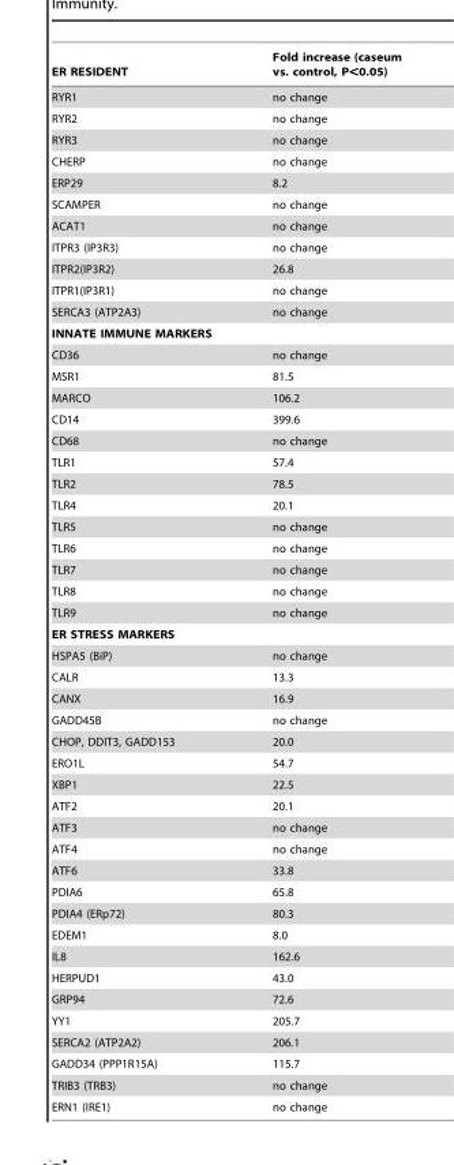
<table><thead><tr><td>ER RESIDENT</td><td>Fold increase (caseum vs. control, P&lt;0.05)</td></tr></thead><tbody><tr><td>RYR1</td><td>no change</td></tr><tr><td>RYR2</td><td>no change</td></tr><tr><td>RYR3</td><td>no change</td></tr><tr><td>CHERP</td><td>no change</td></tr><tr><td>ERP29</td><td>8.2</td></tr><tr><td>SCAMPER</td><td>no change</td></tr><tr><td>ACAT1</td><td>no change</td></tr><tr><td>ITPR3 (IP3R3)</td><td>no change</td></tr><tr><td>ITPR2(IP3R2)</td><td>26.8</td></tr><tr><td>ITPR1(IP3R1)</td><td>no change</td></tr><tr><td>SERCA3 (ATP2A3)</td><td>no change</td></tr><tr><td colspan="2">INNATE IMMUNE MARKERS</td></tr><tr><td>CD36</td><td>no change</td></tr><tr><td>MSR1</td><td>81.5</td></tr><tr><td>MARCO</td><td>106.2</td></tr><tr><td>CD14</td><td>399.6</td></tr><tr><td>CD68</td><td>no change</td></tr><tr><td>TLR1</td><td>57.4</td></tr><tr><td>TLR2</td><td>78.5</td></tr><tr><td>TLR4</td><td>20.1</td></tr><tr><td>TLR5</td><td>no change</td></tr><tr><td>TLR6</td><td>no change</td></tr><tr><td>TLR7</td><td>no change</td></tr><tr><td>TLR8</td><td>no change</td></tr><tr><td>TLR9</td><td>no change</td></tr><tr><td colspan="2">ER STRESS MARKERS</td></tr><tr><td>HSPA5 (BiP)</td><td>no change</td></tr><tr><td>CALR</td><td>13.3</td></tr><tr><td>CANX</td><td>16.9</td></tr><tr><td>GADD45B</td><td>no change</td></tr><tr><td>CHOP, DDIT3, GADD153</td><td>20.0</td></tr><tr><td>ERO1L</td><td>54.7</td></tr><tr><td>XBP1</td><td>22.5</td></tr><tr><td>ATF2</td><td>20.1</td></tr><tr><td>ATF3</td><td>no change</td></tr><tr><td>ATF4</td><td>no change</td></tr><tr><td>ATF6</td><td>33.8</td></tr><tr><td>PDIA6</td><td>65.8</td></tr><tr><td>PDIA4 (ERp72)</td><td>80.3</td></tr><tr><td>EDEM1</td><td>8.0</td></tr><tr><td>IL8</td><td>162.6</td></tr><tr><td>HERPUD1</td><td>43.0</td></tr><tr><td>GRP94</td><td>72.6</td></tr><tr><td>YY1</td><td>205.7</td></tr><tr><td>SERCA2 (ATP2A2)</td><td>206.1</td></tr><tr><td>GADD34 (PPP1R15A)</td><td>115.7</td></tr><tr><td>TRIB3 (TRB3)</td><td>no change</td></tr><tr><td>ERN1 (IRE1)</td><td>no change</td></tr></tbody></table>